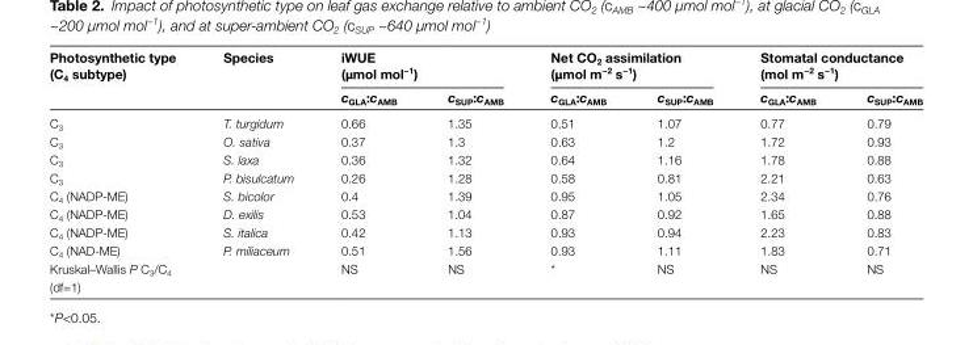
<table><thead><tr><td rowspan="2">Photosynthetic type (C<sub>4</sub> subtype)</td><td rowspan="2">Species</td><td colspan="2">iWUE (µmol mol<sup>−1</sup>)</td><td colspan="2">Net CO<sub>2</sub> assimilation (µmol m<sup>−2</sup> s<sup>−1</sup>)</td><td colspan="2">Stomatal conductance (mol m<sup>−2</sup> s<sup>−1</sup>)</td></tr><tr><td>c<sub>GLA</sub>:c<sub>AMB</sub></td><td>c<sub>SUP</sub>:c<sub>AMB</sub></td><td>c<sub>GLA</sub>:c<sub>AMB</sub></td><td>c<sub>SUP</sub>:c<sub>AMB</sub></td><td>c<sub>GLA</sub>:c<sub>AMB</sub></td><td>c<sub>SUP</sub>:c<sub>AMB</sub></td></tr></thead><tbody><tr><td>C<sub>3</sub></td><td>T. turgidum</td><td>0.66</td><td>1.35</td><td>0.51</td><td>1.07</td><td>0.77</td><td>0.79</td></tr><tr><td>C<sub>3</sub></td><td>O. sativa</td><td>0.37</td><td>1.3</td><td>0.63</td><td>1.2</td><td>1.72</td><td>0.93</td></tr><tr><td>C<sub>3</sub></td><td>S. laxa</td><td>0.36</td><td>1.32</td><td>0.64</td><td>1.16</td><td>1.78</td><td>0.88</td></tr><tr><td>C<sub>3</sub></td><td>P. bisulcatum</td><td>0.26</td><td>1.28</td><td>0.58</td><td>0.81</td><td>2.21</td><td>0.63</td></tr><tr><td>C<sub>4</sub> (NADP-ME)</td><td>S. bicolor</td><td>0.4</td><td>1.39</td><td>0.95</td><td>1.05</td><td>2.34</td><td>0.76</td></tr><tr><td>C<sub>4</sub> (NADP-ME)</td><td>D. exilis</td><td>0.53</td><td>1.04</td><td>0.87</td><td>0.92</td><td>1.65</td><td>0.88</td></tr><tr><td>C<sub>4</sub> (NADP-ME)</td><td>S. italica</td><td>0.42</td><td>1.13</td><td>0.93</td><td>0.94</td><td>2.23</td><td>0.83</td></tr><tr><td>C<sub>4</sub> (NAD-ME)</td><td>P. miliaceum</td><td>0.51</td><td>1.56</td><td>0.93</td><td>1.11</td><td>1.83</td><td>0.71</td></tr><tr><td>Kruskal–Wallis P C<sub>3</sub>/C<sub>4</sub> (df=1)</td><td></td><td>NS</td><td>NS</td><td>*</td><td>NS</td><td>NS</td><td>NS</td></tr></tbody></table>